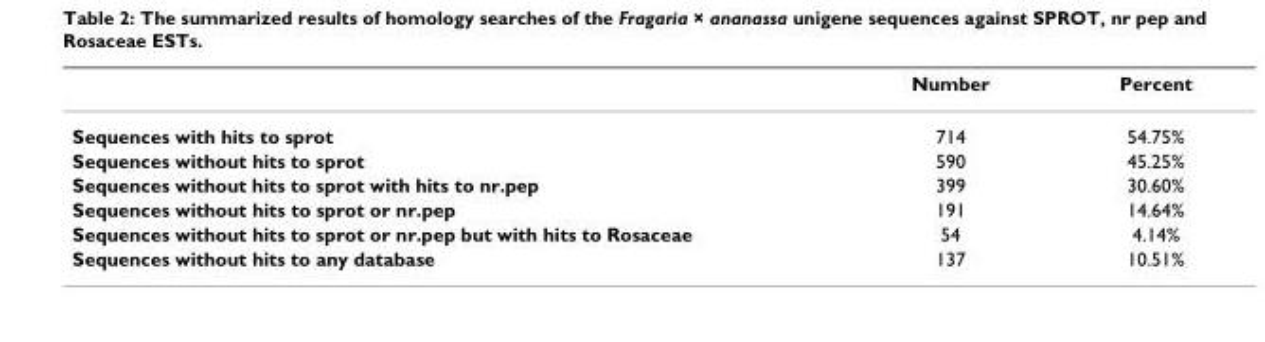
<table><thead><tr><td></td><td>Number</td><td>Percent</td></tr></thead><tbody><tr><td>Sequences with hits to sprot</td><td>714</td><td>54.75%</td></tr><tr><td>Sequences without hits to sprot</td><td>590</td><td>45.25%</td></tr><tr><td>Sequences without hits to sprot with hits to nr.pep</td><td>399</td><td>30.60%</td></tr><tr><td>Sequences without hits to sprot or nr.pep</td><td>191</td><td>14.64%</td></tr><tr><td>Sequences without hits to sprot or nr.pep but with hits to Rosaceae</td><td>54</td><td>4.14%</td></tr><tr><td>Sequences without hits to any database</td><td>137</td><td>10.51%</td></tr></tbody></table>